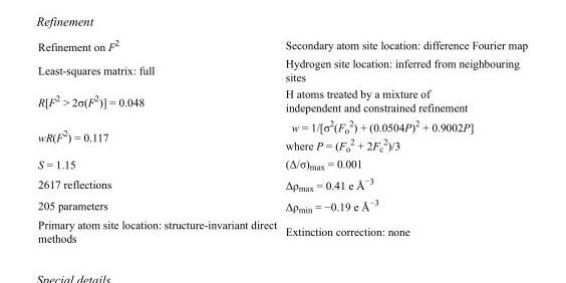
<table><tbody><tr><td>Refinement on F<sup>2</sup></td><td>Secondary atom site location: difference Fourier map</td></tr><tr><td>Least-squares matrix: full</td><td>Hydrogen site location: inferred from neighbouring sites</td></tr><tr><td>R[F<sup>2</sup> &gt; 2σ(F<sup>2</sup>)] = 0.048</td><td>H atoms treated by a mixture of independent and constrained refinement</td></tr><tr><td>wR(F<sup>2</sup>) = 0.117</td><td>w = 1/[σ<sup>2</sup>(F<sub>o</sub> <sup>2</sup>) + (0.0504P)<sup>2</sup> + 0.9002P] where P = (F<sub>o</sub> <sup>2</sup> + 2F<sub>c</sub> <sup>2</sup>)/3</td></tr><tr><td>S = 1.15</td><td>(Δ/σ)<sub>max</sub> = 0.001</td></tr><tr><td>2617 reflections</td><td>Δρ<sub>max</sub> = 0.41 e Å<sup>−3</sup></td></tr><tr><td>205 parameters</td><td>Δρ<sub>min</sub> = −0.19 e Å<sup>−3</sup></td></tr><tr><td>Primary atom site location: structure-invariant direct methods</td><td>Extinction correction: none</td></tr></tbody></table>